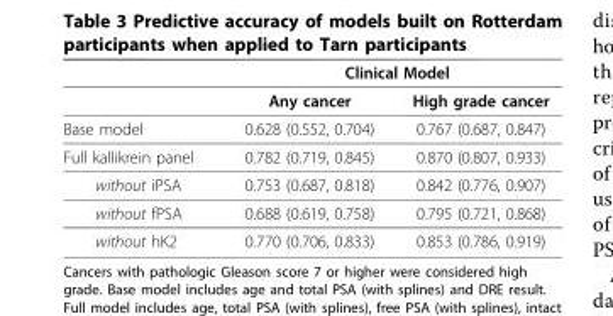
<table><thead><tr><td rowspan="2"></td><td colspan="2">Clinical Model</td></tr><tr><td>Any cancer</td><td>High grade cancer</td></tr></thead><tbody><tr><td>Base model</td><td>0.628 (0.552, 0.704)</td><td>0.767 (0.687, 0.847)</td></tr><tr><td>Full kallikrein panel</td><td>0.782 (0.719, 0.845)</td><td>0.870 (0.807, 0.933)</td></tr><tr><td>without iPSA</td><td>0.753 (0.687, 0.818)</td><td>0.842 (0.776, 0.907)</td></tr><tr><td>without fPSA</td><td>0.688 (0.619, 0.758)</td><td>0.795 (0.721, 0.868)</td></tr><tr><td>without hK2</td><td>0.770 (0.706, 0.833)</td><td>0.853 (0.786, 0.919)</td></tr></tbody></table>